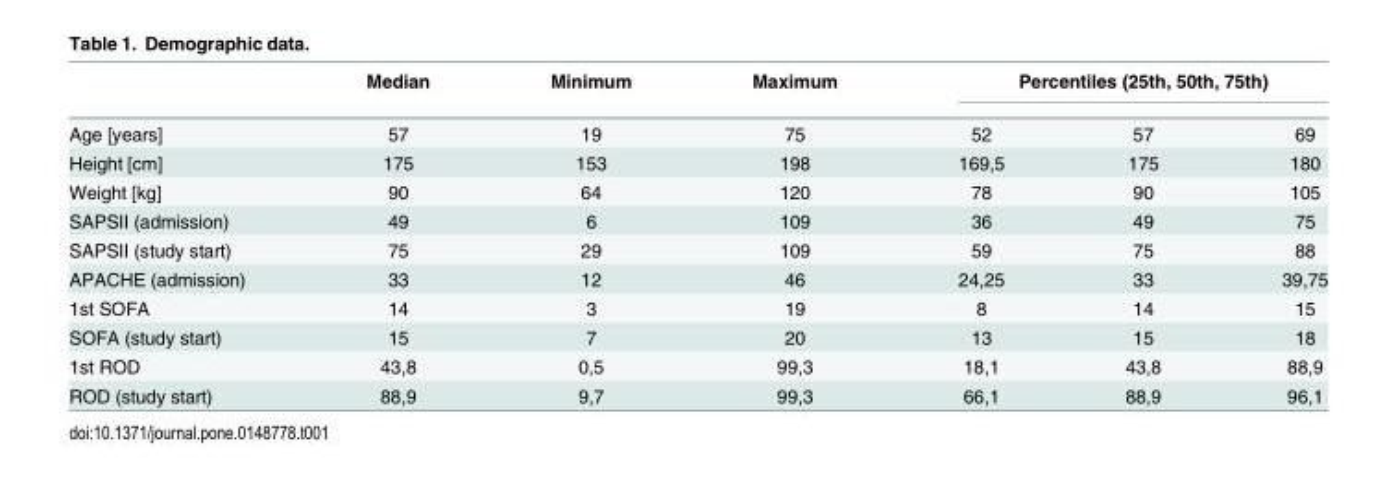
<table><thead><tr><td rowspan="2">Age [years]</td><td rowspan="2">Median 57</td><td rowspan="2">Minimum 19</td><td rowspan="2">Maximum 75</td><td colspan="3">Percentiles (25th, 50th, 75th)</td></tr><tr><td>52</td><td>57</td><td>69</td></tr></thead><tbody><tr><td>Height [cm]</td><td>175</td><td>153</td><td>198</td><td>169,5</td><td>175</td><td>180</td></tr><tr><td>Weight [kg]</td><td>90</td><td>64</td><td>120</td><td>78</td><td>90</td><td>105</td></tr><tr><td>SAPSII (admission)</td><td>49</td><td>6</td><td>109</td><td>36</td><td>49</td><td>75</td></tr><tr><td>SAPSII (study start)</td><td>75</td><td>29</td><td>109</td><td>59</td><td>75</td><td>88</td></tr><tr><td>APACHE (admission)</td><td>33</td><td>12</td><td>46</td><td>24,25</td><td>33</td><td>39,75</td></tr><tr><td>1st SOFA</td><td>14</td><td>3</td><td>19</td><td>8</td><td>14</td><td>15</td></tr><tr><td>SOFA (study start)</td><td>15</td><td>7</td><td>20</td><td>13</td><td>15</td><td>18</td></tr><tr><td>1st ROD</td><td>43,8</td><td>0,5</td><td>99,3</td><td>18,1</td><td>43,8</td><td>88,9</td></tr><tr><td>ROD (study start)</td><td>88,9</td><td>9,7</td><td>99,3</td><td>66,1</td><td>88,9</td><td>96,1</td></tr></tbody></table>